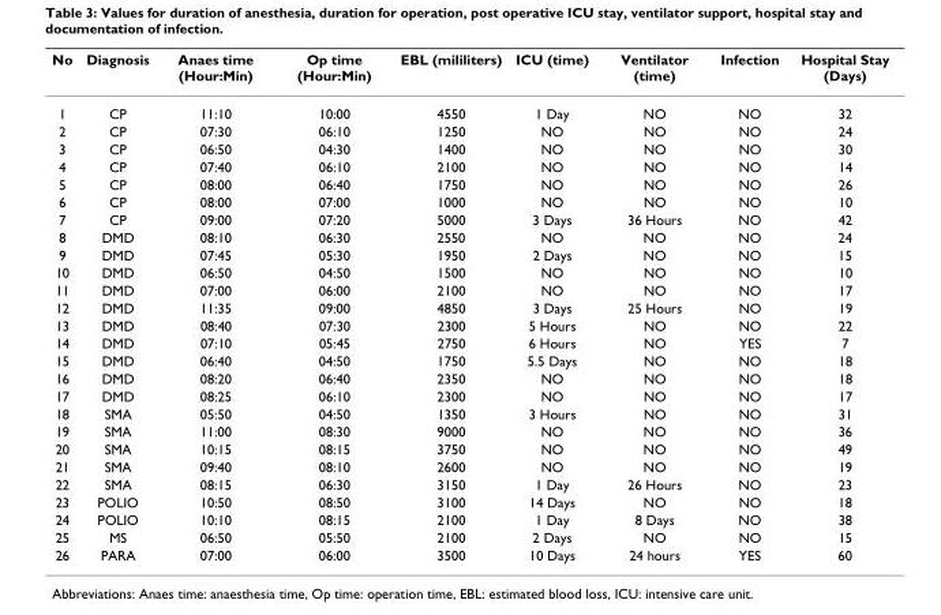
<table><thead><tr><td>No</td><td>Diagnosis</td><td>Anaes time (Hour:Min)</td><td>Op time (Hour:Min)</td><td>EBL (mililiters)</td><td>ICU (time)</td><td>Ventilator (time)</td><td>Infection</td><td>Hospital Stay (Days)</td></tr></thead><tbody><tr><td>1</td><td>CP</td><td>11:10</td><td>10:00</td><td>4550</td><td>1 Day</td><td>NO</td><td>NO</td><td>32</td></tr><tr><td>2</td><td>CP</td><td>07:30</td><td>06:10</td><td>1250</td><td>NO</td><td>NO</td><td>NO</td><td>24</td></tr><tr><td>3</td><td>CP</td><td>06:50</td><td>04:30</td><td>1400</td><td>NO</td><td>NO</td><td>NO</td><td>30</td></tr><tr><td>4</td><td>CP</td><td>07:40</td><td>06:10</td><td>2100</td><td>NO</td><td>NO</td><td>NO</td><td>14</td></tr><tr><td>5</td><td>CP</td><td>08:00</td><td>06:40</td><td>1750</td><td>NO</td><td>NO</td><td>NO</td><td>26</td></tr><tr><td>6</td><td>CP</td><td>08:00</td><td>07:00</td><td>1000</td><td>NO</td><td>NO</td><td>NO</td><td>10</td></tr><tr><td>7</td><td>CP</td><td>09:00</td><td>07:20</td><td>5000</td><td>3 Days</td><td>36 Hours</td><td>NO</td><td>42</td></tr><tr><td>8</td><td>DMD</td><td>08:10</td><td>06:30</td><td>2550</td><td>NO</td><td>NO</td><td>NO</td><td>24</td></tr><tr><td>9</td><td>DMD</td><td>07:45</td><td>05:30</td><td>1950</td><td>2 Days</td><td>NO</td><td>NO</td><td>15</td></tr><tr><td>10</td><td>DMD</td><td>06:50</td><td>04:50</td><td>1500</td><td>NO</td><td>NO</td><td>NO</td><td>10</td></tr><tr><td>11</td><td>DMD</td><td>07:00</td><td>06:00</td><td>2100</td><td>NO</td><td>NO</td><td>NO</td><td>17</td></tr><tr><td>12</td><td>DMD</td><td>11:35</td><td>09:00</td><td>4850</td><td>3 Days</td><td>25 Hours</td><td>NO</td><td>19</td></tr><tr><td>13</td><td>DMD</td><td>08:40</td><td>07:30</td><td>2300</td><td>5 Hours</td><td>NO</td><td>NO</td><td>22</td></tr><tr><td>14</td><td>DMD</td><td>07:10</td><td>05:45</td><td>2750</td><td>6 Hours</td><td>NO</td><td>YES</td><td>7</td></tr><tr><td>15</td><td>DMD</td><td>06:40</td><td>04:50</td><td>1750</td><td>5.5 Days</td><td>NO</td><td>NO</td><td>18</td></tr><tr><td>16</td><td>DMD</td><td>08:20</td><td>06:40</td><td>2350</td><td>NO</td><td>NO</td><td>NO</td><td>18</td></tr><tr><td>17</td><td>DMD</td><td>08:25</td><td>06:10</td><td>2300</td><td>NO</td><td>NO</td><td>NO</td><td>17</td></tr><tr><td>18</td><td>SMA</td><td>05:50</td><td>04:50</td><td>1350</td><td>3 Hours</td><td>NO</td><td>NO</td><td>31</td></tr><tr><td>19</td><td>SMA</td><td>11:00</td><td>08:30</td><td>9000</td><td>NO</td><td>NO</td><td>NO</td><td>36</td></tr><tr><td>20</td><td>SMA</td><td>10:15</td><td>08:15</td><td>3750</td><td>NO</td><td>NO</td><td>NO</td><td>49</td></tr><tr><td>21</td><td>SMA</td><td>09:40</td><td>08:10</td><td>2600</td><td>NO</td><td>NO</td><td>NO</td><td>19</td></tr><tr><td>22</td><td>SMA</td><td>08:15</td><td>06:30</td><td>3150</td><td>1 Day</td><td>26 Hours</td><td>NO</td><td>23</td></tr><tr><td>23</td><td>POLIO</td><td>10:50</td><td>08:50</td><td>3100</td><td>14 Days</td><td>NO</td><td>NO</td><td>18</td></tr><tr><td>24</td><td>POLIO</td><td>10:10</td><td>08:15</td><td>2100</td><td>1 Day</td><td>8 Days</td><td>NO</td><td>38</td></tr><tr><td>25</td><td>MS</td><td>06:50</td><td>05:50</td><td>2100</td><td>2 Days</td><td>NO</td><td>NO</td><td>15</td></tr><tr><td>26</td><td>PARA</td><td>07:00</td><td>06:00</td><td>3500</td><td>10 Days</td><td>24 hours</td><td>YES</td><td>60</td></tr></tbody></table>